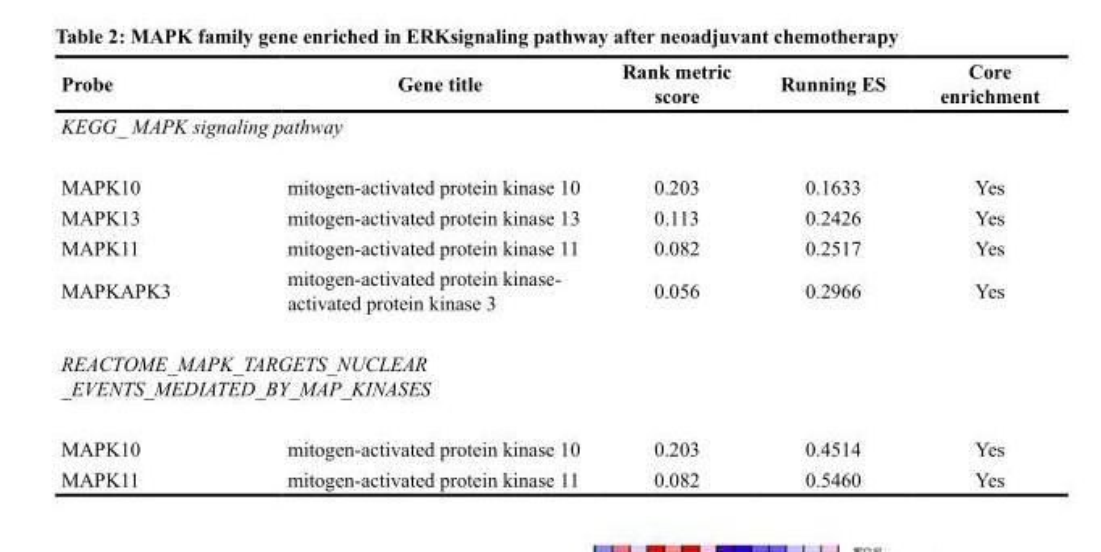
<table><thead><tr><td>Probe</td><td>Gene title</td><td>Rank metric score</td><td>Running ES</td><td>Core enrichment</td></tr></thead><tbody><tr><td colspan="5">KEGG_ MAPK signaling pathway</td></tr><tr><td>MAPK10</td><td>mitogen-activated protein kinase 10</td><td>0.203</td><td>0.1633</td><td>Yes</td></tr><tr><td>MAPK13</td><td>mitogen-activated protein kinase 13</td><td>0.113</td><td>0.2426</td><td>Yes</td></tr><tr><td>MAPK11</td><td>mitogen-activated protein kinase 11</td><td>0.082</td><td>0.2517</td><td>Yes</td></tr><tr><td>MAPKAPK3</td><td>mitogen-activated protein kinase- activated protein kinase 3</td><td>0.056</td><td>0.2966</td><td>Yes</td></tr><tr><td colspan="5">REACTOME_MAPK_TARGETS_NUCLEAR _EVENTS_MEDIATED_BY_MAP_KINASES</td></tr><tr><td>MAPK10</td><td>mitogen-activated protein kinase 10</td><td>0.203</td><td>0.4514</td><td>Yes</td></tr><tr><td>MAPK11</td><td>mitogen-activated protein kinase 11</td><td>0.082</td><td>0.5460</td><td>Yes</td></tr></tbody></table>